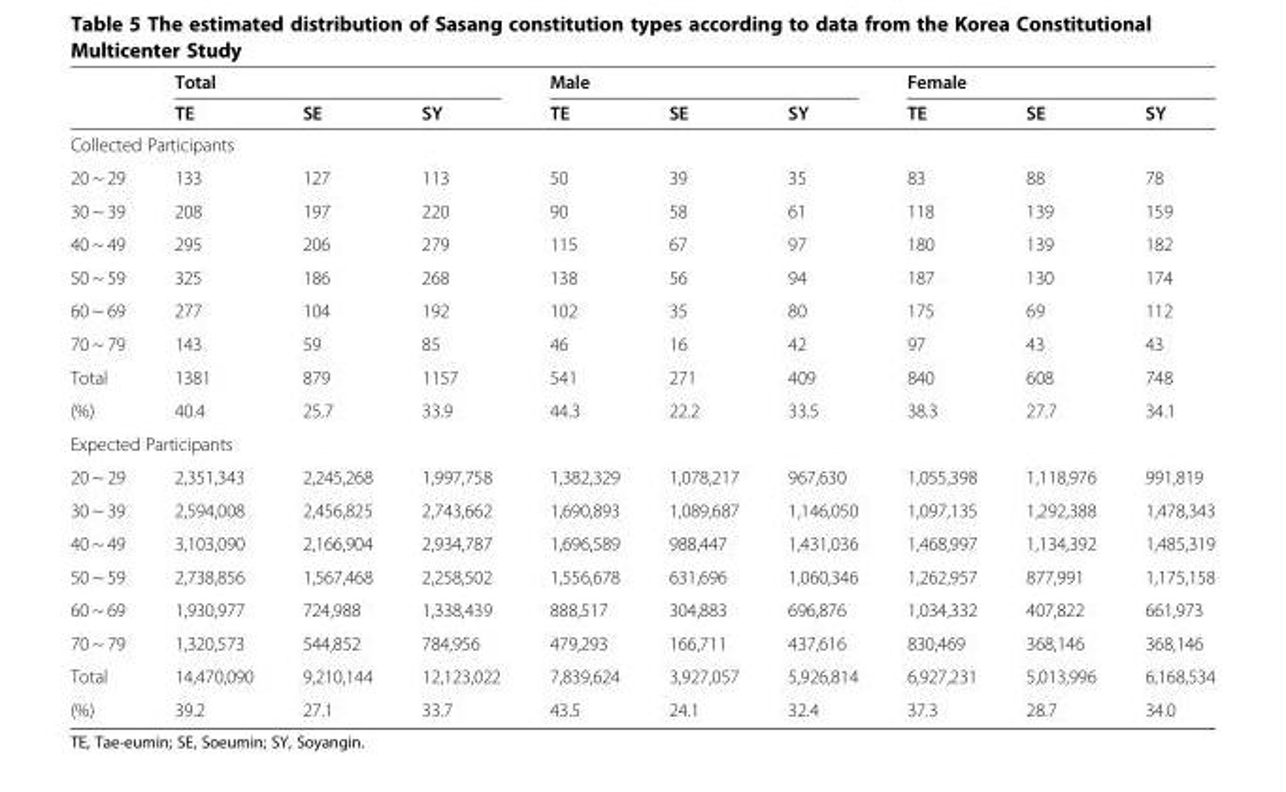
<table><thead><tr><td rowspan="2"></td><td colspan="3">Total</td><td colspan="3">Male</td><td colspan="3">Female</td></tr><tr><td>TE</td><td>SE</td><td>SY</td><td>TE</td><td>SE</td><td>SY</td><td>TE</td><td>SE</td><td>SY</td></tr></thead><tbody><tr><td colspan="10">Collected Participants</td></tr><tr><td>20 ~ 29</td><td>133</td><td>127</td><td>113</td><td>50</td><td>39</td><td>35</td><td>83</td><td>88</td><td>78</td></tr><tr><td>30 ~ 39</td><td>208</td><td>197</td><td>220</td><td>90</td><td>58</td><td>61</td><td>118</td><td>139</td><td>159</td></tr><tr><td>40 ~ 49</td><td>295</td><td>206</td><td>279</td><td>115</td><td>67</td><td>97</td><td>180</td><td>139</td><td>182</td></tr><tr><td>50 ~ 59</td><td>325</td><td>186</td><td>268</td><td>138</td><td>56</td><td>94</td><td>187</td><td>130</td><td>174</td></tr><tr><td>60 ~ 69</td><td>277</td><td>104</td><td>192</td><td>102</td><td>35</td><td>80</td><td>175</td><td>69</td><td>112</td></tr><tr><td>70 ~ 79</td><td>143</td><td>59</td><td>85</td><td>46</td><td>16</td><td>42</td><td>97</td><td>43</td><td>43</td></tr><tr><td>Total</td><td>1381</td><td>879</td><td>1157</td><td>541</td><td>271</td><td>409</td><td>840</td><td>608</td><td>748</td></tr><tr><td>(%)</td><td>40.4</td><td>25.7</td><td>33.9</td><td>44.3</td><td>22.2</td><td>33.5</td><td>38.3</td><td>27.7</td><td>34.1</td></tr><tr><td colspan="10">Expected Participants</td></tr><tr><td>20 ~ 29</td><td>2,351,343</td><td>2,245,268</td><td>1,997,758</td><td>1,382,329</td><td>1,078,217</td><td>967,630</td><td>1,055,398</td><td>1,118,976</td><td>991,819</td></tr><tr><td>30 ~ 39</td><td>2,594,008</td><td>2,456,825</td><td>2,743,662</td><td>1,690,893</td><td>1,089,687</td><td>1,146,050</td><td>1,097,135</td><td>1,292,388</td><td>1,478,343</td></tr><tr><td>40 ~ 49</td><td>3,103,090</td><td>2,166,904</td><td>2,934,787</td><td>1,696,589</td><td>988,447</td><td>1,431,036</td><td>1,468,997</td><td>1,134,392</td><td>1,485,319</td></tr><tr><td>50 ~ 59</td><td>2,738,856</td><td>1,567,468</td><td>2,258,502</td><td>1,556,678</td><td>631,696</td><td>1,060,346</td><td>1,262,957</td><td>877,991</td><td>1,175,158</td></tr><tr><td>60 ~ 69</td><td>1,930,977</td><td>724,988</td><td>1,338,439</td><td>888,517</td><td>304,883</td><td>696,876</td><td>1,034,332</td><td>407,822</td><td>661,973</td></tr><tr><td>70 ~ 79</td><td>1,320,573</td><td>544,852</td><td>784,956</td><td>479,293</td><td>166,711</td><td>437,616</td><td>830,469</td><td>368,146</td><td>368,146</td></tr><tr><td>Total</td><td>14,470,090</td><td>9,210,144</td><td>12,123,022</td><td>7,839,624</td><td>3,927,057</td><td>5,926,814</td><td>6,927,231</td><td>5,013,996</td><td>6,168,534</td></tr><tr><td>(%)</td><td>39.2</td><td>27.1</td><td>33.7</td><td>43.5</td><td>24.1</td><td>32.4</td><td>37.3</td><td>28.7</td><td>34.0</td></tr></tbody></table>